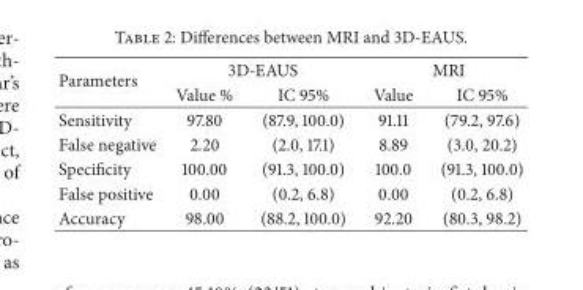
<table><thead><tr><td rowspan="2">Parameters</td><td colspan="2">3D-EAUS</td><td colspan="2">MRI</td></tr><tr><td>Value %</td><td>IC 95%</td><td>Value</td><td>IC 95%</td></tr></thead><tbody><tr><td>Sensitivity</td><td>97.80</td><td>(87.9, 100.0)</td><td>91.11</td><td>(79.2, 97.6)</td></tr><tr><td>False negative</td><td>2.20</td><td>(2.0, 17.1)</td><td>8.89</td><td>(3.0, 20.2)</td></tr><tr><td>Specificity</td><td>100.00</td><td>(91.3, 100.0)</td><td>100.0</td><td>(91.3, 100.0)</td></tr><tr><td>False positive</td><td>0.00</td><td>(0.2, 6.8)</td><td>0.00</td><td>(0.2, 6.8)</td></tr><tr><td>Accuracy</td><td>98.00</td><td>(88.2, 100.0)</td><td>92.20</td><td>(80.3, 98.2)</td></tr></tbody></table>